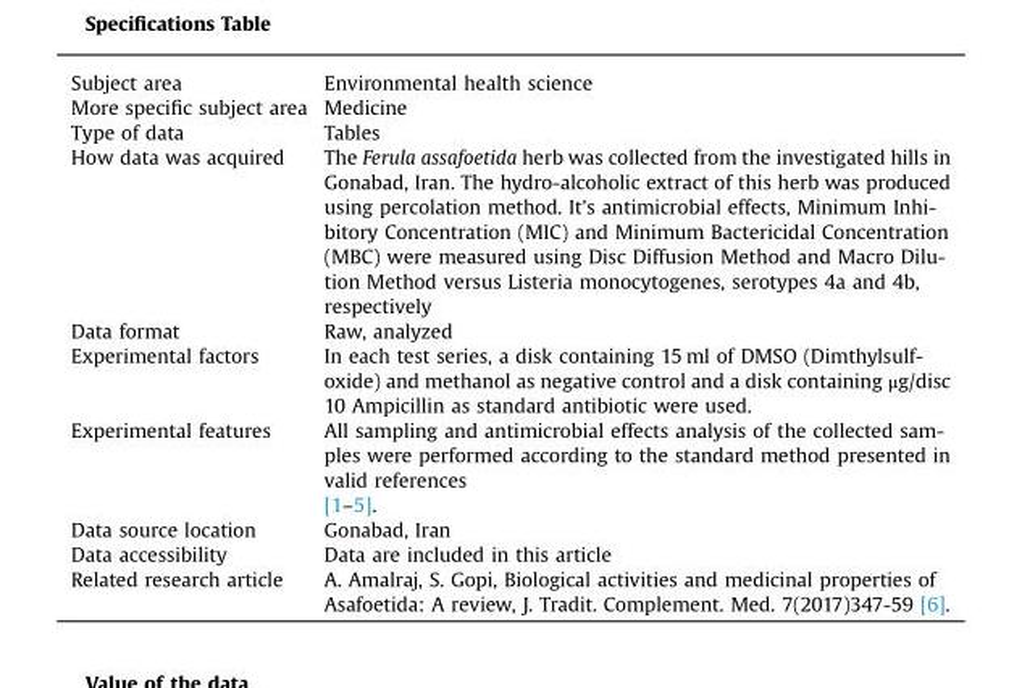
<table><tbody><tr><td>Subject area</td><td>Environmental health science</td></tr><tr><td>More specific subject area</td><td>Medicine</td></tr><tr><td>Type of data</td><td>Tables</td></tr><tr><td>How data was acquired</td><td>The Ferula assafoetida herb was collected from the investigated hills in Gonabad, Iran. The hydro-alcoholic extract of this herb was produced using percolation method. It&#x27;s antimicrobial effects, Minimum Inhi- bitory Concentration (MIC) and Minimum Bactericidal Concentration (MBC) were measured using Disc Diffusion Method and Macro Dilu- tion Method versus Listeria monocytogenes, serotypes 4a and 4b, respectively</td></tr><tr><td>Data format</td><td>Raw, analyzed</td></tr><tr><td>Experimental factors</td><td>In each test series, a disk containing 15 ml of DMSO (Dimthylsulf- oxide) and methanol as negative control and a disk containing μg/disc 10 Ampicillin as standard antibiotic were used.</td></tr><tr><td>Experimental features</td><td>All sampling and antimicrobial effects analysis of the collected sam- ples were performed according to the standard method presented in valid references [1–5].</td></tr><tr><td>Data source location</td><td>Gonabad, Iran</td></tr><tr><td>Data accessibility</td><td>Data are included in this article</td></tr><tr><td>Related research article</td><td>A. Amalraj, S. Gopi, Biological activities and medicinal properties of Asafoetida: A review, J. Tradit. Complement. Med. 7(2017)347-59 [6].</td></tr></tbody></table>